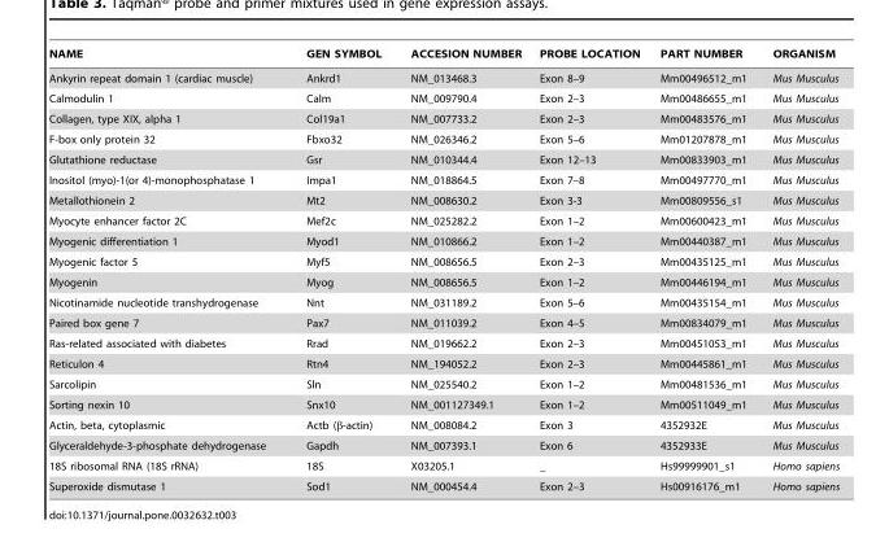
<table><thead><tr><td>NAME</td><td>GEN SYMBOL</td><td>ACCESION NUMBER</td><td>PROBE LOCATION</td><td>PART NUMBER</td><td>ORGANISM</td></tr></thead><tbody><tr><td>Ankyrin repeat domain 1 (cardiac muscle)</td><td>Ankrd1</td><td>NM_013468.3</td><td>Exon 8–9</td><td>Mm00496512_m1</td><td>Mus Musculus</td></tr><tr><td>Calmodulin 1</td><td>Calm</td><td>NM_009790.4</td><td>Exon 2–3</td><td>Mm00486655_m1</td><td>Mus Musculus</td></tr><tr><td>Collagen, type XIX, alpha 1</td><td>Col19a1</td><td>NM_007733.2</td><td>Exon 2–3</td><td>Mm00483576_m1</td><td>Mus Musculus</td></tr><tr><td>F-box only protein 32</td><td>Fbxo32</td><td>NM_026346.2</td><td>Exon 5–6</td><td>Mm01207878_m1</td><td>Mus Musculus</td></tr><tr><td>Glutathione reductase</td><td>Gsr</td><td>NM_010344.4</td><td>Exon 12–13</td><td>Mm00833903_m1</td><td>Mus Musculus</td></tr><tr><td>Inositol (myo)-1(or 4)-monophosphatase 1</td><td>Impa1</td><td>NM_018864.5</td><td>Exon 7–8</td><td>Mm00497770_m1</td><td>Mus Musculus</td></tr><tr><td>Metallothionein 2</td><td>Mt2</td><td>NM_008630.2</td><td>Exon 3-3</td><td>Mm00809556_s1</td><td>Mus Musculus</td></tr><tr><td>Myocyte enhancer factor 2C</td><td>Mef2c</td><td>NM_025282.2</td><td>Exon 1–2</td><td>Mm00600423_m1</td><td>Mus Musculus</td></tr><tr><td>Myogenic differentiation 1</td><td>Myod1</td><td>NM_010866.2</td><td>Exon 1–2</td><td>Mm00440387_m1</td><td>Mus Musculus</td></tr><tr><td>Myogenic factor 5</td><td>Myf5</td><td>NM_008656.5</td><td>Exon 2–3</td><td>Mm00435125_m1</td><td>Mus Musculus</td></tr><tr><td>Myogenin</td><td>Myog</td><td>NM_008656.5</td><td>Exon 1–2</td><td>Mm00446194_m1</td><td>Mus Musculus</td></tr><tr><td>Nicotinamide nucleotide transhydrogenase</td><td>Nnt</td><td>NM_031189.2</td><td>Exon 5–6</td><td>Mm00435154_m1</td><td>Mus Musculus</td></tr><tr><td>Paired box gene 7</td><td>Pax7</td><td>NM_011039.2</td><td>Exon 4–5</td><td>Mm00834079_m1</td><td>Mus Musculus</td></tr><tr><td>Ras-related associated with diabetes</td><td>Rrad</td><td>NM_019662.2</td><td>Exon 2–3</td><td>Mm00451053_m1</td><td>Mus Musculus</td></tr><tr><td>Reticulon 4</td><td>Rtn4</td><td>NM_194052.2</td><td>Exon 2–3</td><td>Mm00445861_m1</td><td>Mus Musculus</td></tr><tr><td>Sarcolipin</td><td>Sln</td><td>NM_025540.2</td><td>Exon 1–2</td><td>Mm00481536_m1</td><td>Mus Musculus</td></tr><tr><td>Sorting nexin 10</td><td>Snx10</td><td>NM_001127349.1</td><td>Exon 1–2</td><td>Mm00511049_m1</td><td>Mus Musculus</td></tr><tr><td>Actin, beta, cytoplasmic</td><td>Actb (β-actin)</td><td>NM_008084.2</td><td>Exon 3</td><td>4352932E</td><td>Mus Musculus</td></tr><tr><td>Glyceraldehyde-3-phosphate dehydrogenase</td><td>Gapdh</td><td>NM_007393.1</td><td>Exon 6</td><td>4352933E</td><td>Mus Musculus</td></tr><tr><td>18S ribosomal RNA (18S rRNA)</td><td>18S</td><td>X03205.1</td><td>_</td><td>Hs99999901_s1</td><td>Homo sapiens</td></tr><tr><td>Superoxide dismutase 1</td><td>Sod1</td><td>NM_000454.4</td><td>Exon 2–3</td><td>Hs00916176_m1</td><td>Homo sapiens</td></tr></tbody></table>